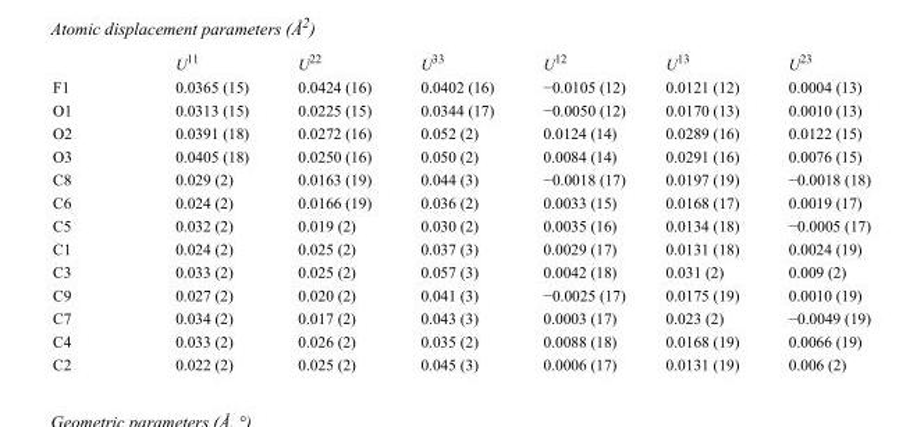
<table><thead><tr><td></td><td>U<sup>11</sup></td><td>U<sup>22</sup></td><td>U<sup>33</sup></td><td>U<sup>12</sup></td><td>U<sup>13</sup></td><td>U<sup>23</sup></td></tr></thead><tbody><tr><td>F1</td><td>0.0365 (15)</td><td>0.0424 (16)</td><td>0.0402 (16)</td><td>−0.0105 (12)</td><td>0.0121 (12)</td><td>0.0004 (13)</td></tr><tr><td>O1</td><td>0.0313 (15)</td><td>0.0225 (15)</td><td>0.0344 (17)</td><td>−0.0050 (12)</td><td>0.0170 (13)</td><td>0.0010 (13)</td></tr><tr><td>O2</td><td>0.0391 (18)</td><td>0.0272 (16)</td><td>0.052 (2)</td><td>0.0124 (14)</td><td>0.0289 (16)</td><td>0.0122 (15)</td></tr><tr><td>O3</td><td>0.0405 (18)</td><td>0.0250 (16)</td><td>0.050 (2)</td><td>0.0084 (14)</td><td>0.0291 (16)</td><td>0.0076 (15)</td></tr><tr><td>C8</td><td>0.029 (2)</td><td>0.0163 (19)</td><td>0.044 (3)</td><td>−0.0018 (17)</td><td>0.0197 (19)</td><td>−0.0018 (18)</td></tr><tr><td>C6</td><td>0.024 (2)</td><td>0.0166 (19)</td><td>0.036 (2)</td><td>0.0033 (15)</td><td>0.0168 (17)</td><td>0.0019 (17)</td></tr><tr><td>C5</td><td>0.032 (2)</td><td>0.019 (2)</td><td>0.030 (2)</td><td>0.0035 (16)</td><td>0.0134 (18)</td><td>−0.0005 (17)</td></tr><tr><td>C1</td><td>0.024 (2)</td><td>0.025 (2)</td><td>0.037 (3)</td><td>0.0029 (17)</td><td>0.0131 (18)</td><td>0.0024 (19)</td></tr><tr><td>C3</td><td>0.033 (2)</td><td>0.025 (2)</td><td>0.057 (3)</td><td>0.0042 (18)</td><td>0.031 (2)</td><td>0.009 (2)</td></tr><tr><td>C9</td><td>0.027 (2)</td><td>0.020 (2)</td><td>0.041 (3)</td><td>−0.0025 (17)</td><td>0.0175 (19)</td><td>0.0010 (19)</td></tr><tr><td>C7</td><td>0.034 (2)</td><td>0.017 (2)</td><td>0.043 (3)</td><td>0.0003 (17)</td><td>0.023 (2)</td><td>−0.0049 (19)</td></tr><tr><td>C4</td><td>0.033 (2)</td><td>0.026 (2)</td><td>0.035 (2)</td><td>0.0088 (18)</td><td>0.0168 (19)</td><td>0.0066 (19)</td></tr><tr><td>C2</td><td>0.022 (2)</td><td>0.025 (2)</td><td>0.045 (3)</td><td>0.0006 (17)</td><td>0.0131 (19)</td><td>0.006 (2)</td></tr></tbody></table>